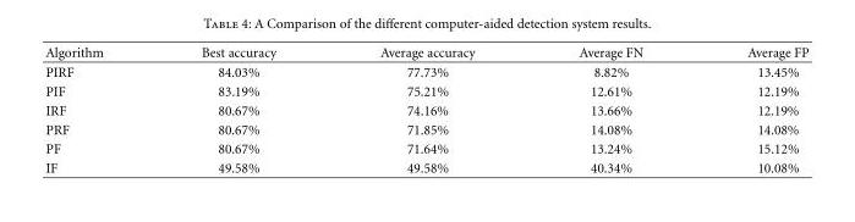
<table><thead><tr><td>Algorithm</td><td>Best accuracy</td><td>Average accuracy</td><td>Average FN</td><td>Average FP</td></tr></thead><tbody><tr><td>PIRF</td><td>84.03%</td><td>77.73%</td><td>8.82%</td><td>13.45%</td></tr><tr><td>PIF</td><td>83.19%</td><td>75.21%</td><td>12.61%</td><td>12.19%</td></tr><tr><td>IRF</td><td>80.67%</td><td>74.16%</td><td>13.66%</td><td>12.19%</td></tr><tr><td>PRF</td><td>80.67%</td><td>71.85%</td><td>14.08%</td><td>14.08%</td></tr><tr><td>PF</td><td>80.67%</td><td>71.64%</td><td>13.24%</td><td>15.12%</td></tr><tr><td>IF</td><td>49.58%</td><td>49.58%</td><td>40.34%</td><td>10.08%</td></tr></tbody></table>